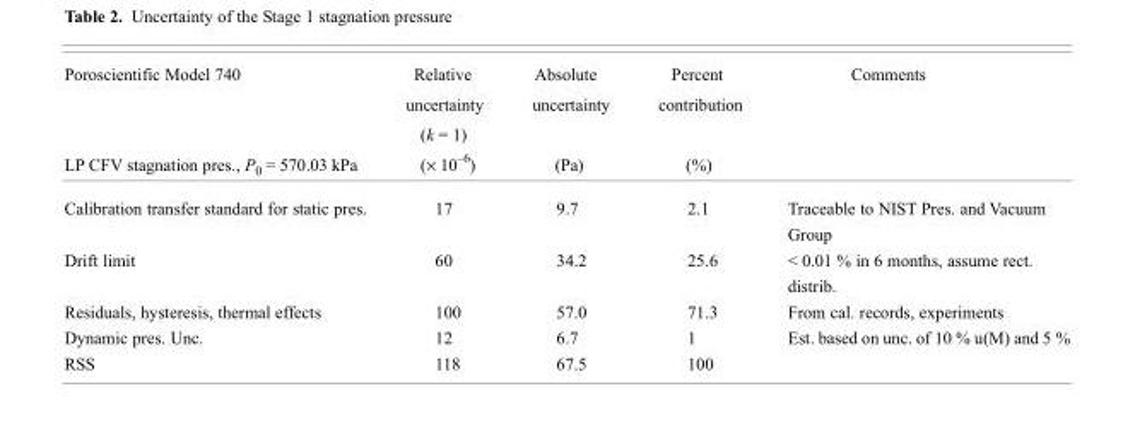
<table><thead><tr><td rowspan="2">Poroscientific Model 740 LP CFV stagnation pres., P<sub>0</sub> = 570.03 kPa</td><td rowspan="2">Relative uncertainty (k = 1) (× 10<sup>–6</sup>)</td><td rowspan="2">Absolute uncertainty (Pa)</td><td rowspan="2">Percent contribution (%)</td><td rowspan="2">Comments</td></tr><tr></tr></thead><tbody><tr><td>Calibration transfer standard for static pres.</td><td>17</td><td>9.7</td><td>2.1</td><td>Traceable to NIST Pres. and Vacuum Group</td></tr><tr><td>Drift limit</td><td>60</td><td>34.2</td><td>25.6</td><td>&lt; 0.01 % in 6 months, assume rect. distrib.</td></tr><tr><td>Residuals, hysteresis, thermal effects</td><td>100</td><td>57.0</td><td>71.3</td><td>From cal. records, experiments</td></tr><tr><td>Dynamic pres. Unc.</td><td>12</td><td>6.7</td><td>1</td><td>Est. based on unc. of 10 % u(M) and 5 %</td></tr><tr><td>RSS</td><td>118</td><td>67.5</td><td>100</td><td></td></tr></tbody></table>